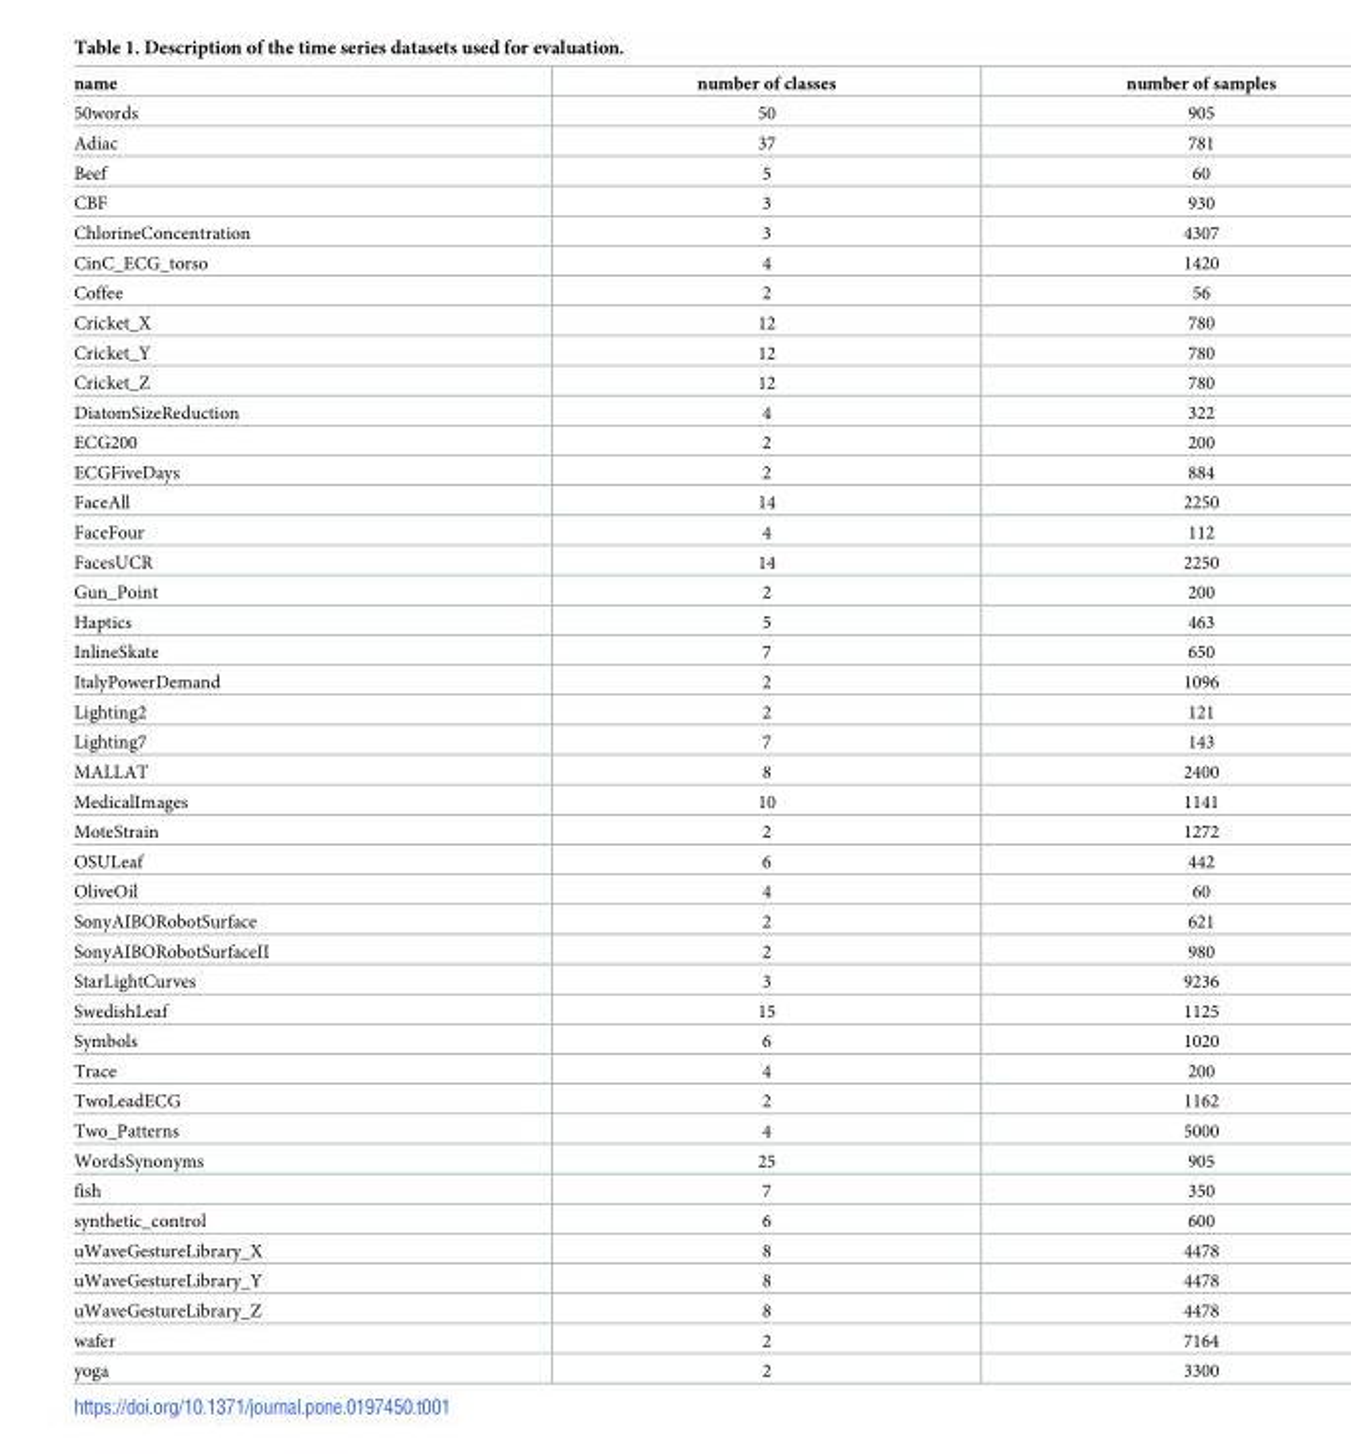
<table><thead><tr><td>name</td><td>number of classes</td><td>number of samples</td></tr></thead><tbody><tr><td>50words</td><td>50</td><td>905</td></tr><tr><td>Adiac</td><td>37</td><td>781</td></tr><tr><td>Beef</td><td>5</td><td>60</td></tr><tr><td>CBF</td><td>3</td><td>930</td></tr><tr><td>ChlorineConcentration</td><td>3</td><td>4307</td></tr><tr><td>CinC_ECG_torso</td><td>4</td><td>1420</td></tr><tr><td>Coffee</td><td>2</td><td>56</td></tr><tr><td>Cricket_X</td><td>12</td><td>780</td></tr><tr><td>Cricket_Y</td><td>12</td><td>780</td></tr><tr><td>Cricket_Z</td><td>12</td><td>780</td></tr><tr><td>DiatomSizeReduction</td><td>4</td><td>322</td></tr><tr><td>ECG200</td><td>2</td><td>200</td></tr><tr><td>ECGFiveDays</td><td>2</td><td>884</td></tr><tr><td>FaceAll</td><td>14</td><td>2250</td></tr><tr><td>FaceFour</td><td>4</td><td>112</td></tr><tr><td>FacesUCR</td><td>14</td><td>2250</td></tr><tr><td>Gun_Point</td><td>2</td><td>200</td></tr><tr><td>Haptics</td><td>5</td><td>463</td></tr><tr><td>InlineSkate</td><td>7</td><td>650</td></tr><tr><td>ItalyPowerDemand</td><td>2</td><td>1096</td></tr><tr><td>Lighting2</td><td>2</td><td>121</td></tr><tr><td>Lighting7</td><td>7</td><td>143</td></tr><tr><td>MALLAT</td><td>8</td><td>2400</td></tr><tr><td>MedicalImages</td><td>10</td><td>1141</td></tr><tr><td>MoteStrain</td><td>2</td><td>1272</td></tr><tr><td>OSULeaf</td><td>6</td><td>442</td></tr><tr><td>OliveOil</td><td>4</td><td>60</td></tr><tr><td>SonyAIBORobotSurface</td><td>2</td><td>621</td></tr><tr><td>SonyAIBORobotSurfaceII</td><td>2</td><td>980</td></tr><tr><td>StarLightCurves</td><td>3</td><td>9236</td></tr><tr><td>SwedishLeaf</td><td>15</td><td>1125</td></tr><tr><td>Symbols</td><td>6</td><td>1020</td></tr><tr><td>Trace</td><td>4</td><td>200</td></tr><tr><td>TwoLeadECG</td><td>2</td><td>1162</td></tr><tr><td>Two_Patterns</td><td>4</td><td>5000</td></tr><tr><td>WordsSynonyms</td><td>25</td><td>905</td></tr><tr><td>fish</td><td>7</td><td>350</td></tr><tr><td>synthetic_control</td><td>6</td><td>600</td></tr><tr><td>uWaveGestureLibrary_X</td><td>8</td><td>4478</td></tr><tr><td>uWaveGestureLibrary_Y</td><td>8</td><td>4478</td></tr><tr><td>uWaveGestureLibrary_Z</td><td>8</td><td>4478</td></tr><tr><td>wafer</td><td>2</td><td>7164</td></tr><tr><td>yoga</td><td>2</td><td>3300</td></tr></tbody></table>